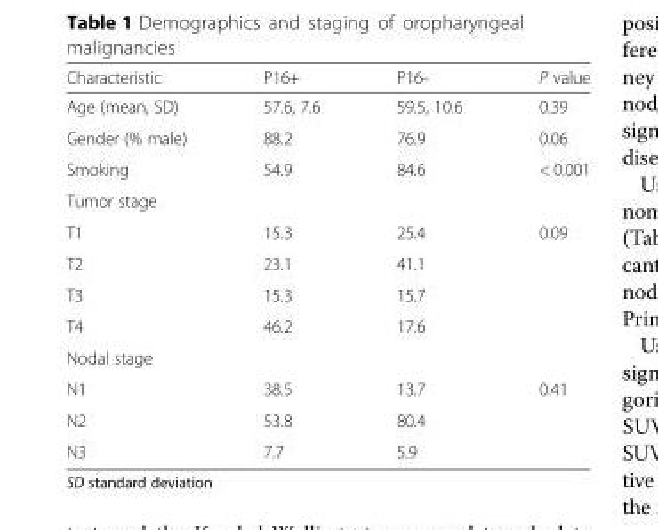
<table><thead><tr><td>Characteristic</td><td>P16+</td><td>P16-</td><td>P value</td></tr></thead><tbody><tr><td>Age (mean, SD)</td><td>57.6, 7.6</td><td>59.5, 10.6</td><td>0.39</td></tr><tr><td>Gender (% male)</td><td>88.2</td><td>76.9</td><td>0.06</td></tr><tr><td>Smoking</td><td>54.9</td><td>84.6</td><td>&lt; 0.001</td></tr><tr><td colspan="4">Tumor stage</td></tr><tr><td>T1</td><td>15.3</td><td>25.4</td><td>0.09</td></tr><tr><td>T2</td><td>23.1</td><td>41.1</td><td></td></tr><tr><td>T3</td><td>15.3</td><td>15.7</td><td></td></tr><tr><td>T4</td><td>46.2</td><td>17.6</td><td></td></tr><tr><td colspan="4">Nodal stage</td></tr><tr><td>N1</td><td>38.5</td><td>13.7</td><td>0.41</td></tr><tr><td>N2</td><td>53.8</td><td>80.4</td><td></td></tr><tr><td>N3</td><td>7.7</td><td>5.9</td><td></td></tr></tbody></table>